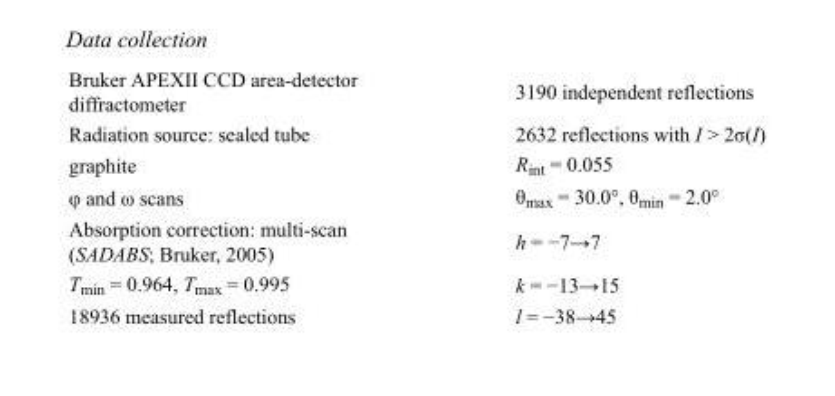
<table><tbody><tr><td>Bruker APEXII CCD area-detector diffractometer</td><td>3190 independent reflections</td></tr><tr><td>Radiation source: sealed tube</td><td>2632 reflections with I &gt; 2σ(I)</td></tr><tr><td>graphite</td><td>R<sub>int</sub> = 0.055</td></tr><tr><td>φ and ω scans</td><td>θ<sub>max</sub> = 30.0°, θ<sub>min</sub> = 2.0°</td></tr><tr><td>Absorption correction: multi-scan (SADABS; Bruker, 2005)</td><td>h = −7→7</td></tr><tr><td>T<sub>min</sub> = 0.964, T<sub>max</sub> = 0.995</td><td>k = −13→15</td></tr><tr><td>18936 measured reflections</td><td>l = −38→45</td></tr></tbody></table>